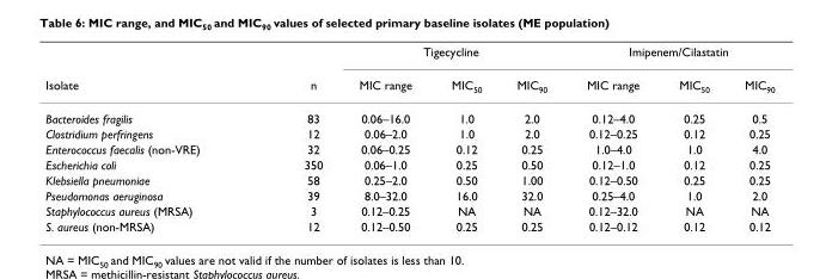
<table><thead><tr><td rowspan="2">Isolate</td><td rowspan="2">n</td><td colspan="3">Tigecycline</td><td colspan="3">Imipenem/Cilastatin</td></tr><tr><td>MIC range</td><td>MIC<sub>50</sub></td><td>MIC<sub>90</sub></td><td>MIC range</td><td>MIC<sub>50</sub></td><td>MIC<sub>90</sub></td></tr></thead><tbody><tr><td>Bacteroides fragilis</td><td>83</td><td>0.06–16.0</td><td>1.0</td><td>2.0</td><td>0.12–4.0</td><td>0.25</td><td>0.5</td></tr><tr><td>Clostridium perfringens</td><td>12</td><td>0.06–2.0</td><td>1.0</td><td>2.0</td><td>0.12–0.25</td><td>0.12</td><td>0.25</td></tr><tr><td>Enterococcus faecalis (non-VRE)</td><td>32</td><td>0.06–0.25</td><td>0.12</td><td>0.25</td><td>1.0–4.0</td><td>1.0</td><td>4.0</td></tr><tr><td>Escherichia coli</td><td>350</td><td>0.06–1.0</td><td>0.25</td><td>0.50</td><td>0.12–1.0</td><td>0.12</td><td>0.25</td></tr><tr><td>Klebsiella pneumoniae</td><td>58</td><td>0.25–2.0</td><td>0.50</td><td>1.00</td><td>0.12–0.50</td><td>0.25</td><td>0.25</td></tr><tr><td>Pseudomonas aeruginosa</td><td>39</td><td>8.0–32.0</td><td>16.0</td><td>32.0</td><td>0.25–4.0</td><td>1.0</td><td>2.0</td></tr><tr><td>Staphylococcus aureus (MRSA)</td><td>3</td><td>0.12–0.25</td><td>NA</td><td>NA</td><td>0.12–32.0</td><td>NA</td><td>NA</td></tr><tr><td>S. aureus (non-MRSA)</td><td>12</td><td>0.12–0.50</td><td>0.25</td><td>0.25</td><td>0.12–0.12</td><td>0.12</td><td>0.12</td></tr></tbody></table>